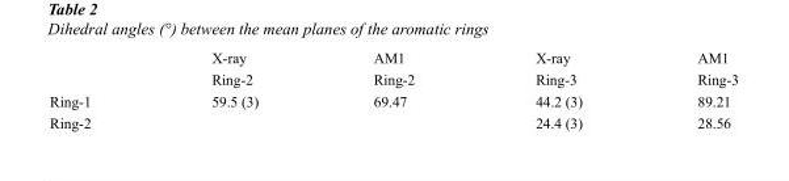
<table><thead><tr><td></td><td>X-ray</td><td>AM1</td><td>X-ray</td><td>AM1</td></tr></thead><tbody><tr><td></td><td>Ring-2</td><td>Ring-2</td><td>Ring-3</td><td>Ring-3</td></tr><tr><td>Ring-1</td><td>59.5 (3)</td><td>69.47</td><td>44.2 (3)</td><td>89.21</td></tr><tr><td>Ring-2</td><td></td><td></td><td>24.4 (3)</td><td>28.56</td></tr></tbody></table>